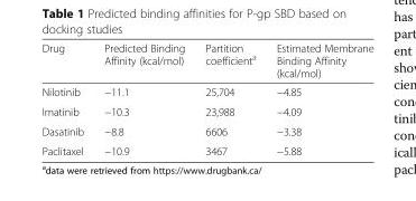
<table><thead><tr><td>Drug</td><td>Predicted Binding Affinity (kcal/mol)</td><td>Partition coefficient<sup>a</sup></td><td>Estimated Membrane Binding Affinity (kcal/mol)</td></tr></thead><tbody><tr><td>Nilotinib</td><td>−11.1</td><td>25,704</td><td>−4.85</td></tr><tr><td>Imatinib</td><td>−10.3</td><td>23,988</td><td>−4.09</td></tr><tr><td>Dasatinib</td><td>−8.8</td><td>6606</td><td>−3.38</td></tr><tr><td>Paclitaxel</td><td>−10.9</td><td>3467</td><td>−5.88</td></tr></tbody></table>